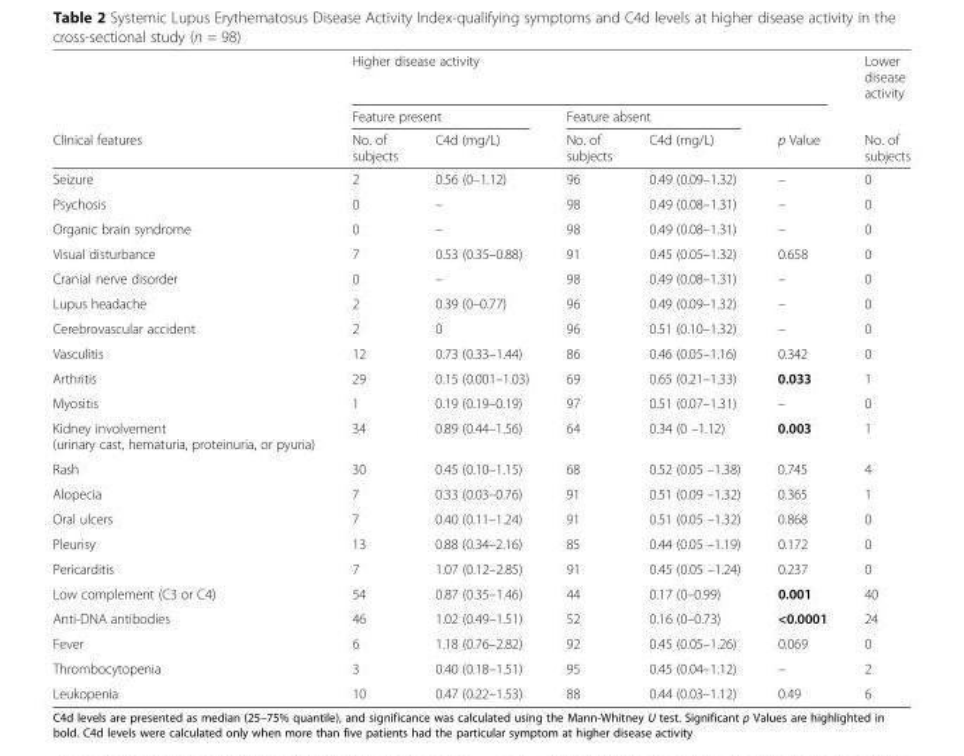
<table><thead><tr><td rowspan="3">Clinical features</td><td colspan="5">Higher disease activity</td><td rowspan="3">Lower disease activity No. of subjects</td></tr><tr><td colspan="2">Feature present</td><td colspan="2">Feature absent</td><td rowspan="2">p Value</td></tr><tr><td>No. of subjects</td><td>C4d (mg/L)</td><td>No. of subjects</td><td>C4d (mg/L)</td></tr></thead><tbody><tr><td>Seizure</td><td>2</td><td>0.56 (0–1.12)</td><td>96</td><td>0.49 (0.09–1.32)</td><td>–</td><td>0</td></tr><tr><td>Psychosis</td><td>0</td><td>–</td><td>98</td><td>0.49 (0.08–1.31)</td><td>–</td><td>0</td></tr><tr><td>Organic brain syndrome</td><td>0</td><td>–</td><td>98</td><td>0.49 (0.08–1.31)</td><td>–</td><td>0</td></tr><tr><td>Visual disturbance</td><td>7</td><td>0.53 (0.35–0.88)</td><td>91</td><td>0.45 (0.05–1.32)</td><td>0.658</td><td>0</td></tr><tr><td>Cranial nerve disorder</td><td>0</td><td>–</td><td>98</td><td>0.49 (0.08–1.31)</td><td>–</td><td>0</td></tr><tr><td>Lupus headache</td><td>2</td><td>0.39 (0–0.77)</td><td>96</td><td>0.49 (0.09–1.32)</td><td>–</td><td>0</td></tr><tr><td>Cerebrovascular accident</td><td>2</td><td>0</td><td>96</td><td>0.51 (0.10–1.32)</td><td>–</td><td>0</td></tr><tr><td>Vasculitis</td><td>12</td><td>0.73 (0.33–1.44)</td><td>86</td><td>0.46 (0.05–1.16)</td><td>0.342</td><td>0</td></tr><tr><td>Arthritis</td><td>29</td><td>0.15 (0.001–1.03)</td><td>69</td><td>0.65 (0.21–1.33)</td><td>0.033</td><td>1</td></tr><tr><td>Myositis</td><td>1</td><td>0.19 (0.19–0.19)</td><td>97</td><td>0.51 (0.07–1.31)</td><td>–</td><td>0</td></tr><tr><td>Kidney involvement (urinary cast, hematuria, proteinuria, or pyuria)</td><td>34</td><td>0.89 (0.44–1.56)</td><td>64</td><td>0.34 (0 –1.12)</td><td>0.003</td><td>1</td></tr><tr><td>Rash</td><td>30</td><td>0.45 (0.10–1.15)</td><td>68</td><td>0.52 (0.05 –1.38)</td><td>0.745</td><td>4</td></tr><tr><td>Alopecia</td><td>7</td><td>0.33 (0.03–0.76)</td><td>91</td><td>0.51 (0.09 –1.32)</td><td>0.365</td><td>1</td></tr><tr><td>Oral ulcers</td><td>7</td><td>0.40 (0.11–1.24)</td><td>91</td><td>0.51 (0.05 –1.32)</td><td>0.868</td><td>0</td></tr><tr><td>Pleurisy</td><td>13</td><td>0.88 (0.34–2.16)</td><td>85</td><td>0.44 (0.05 –1.19)</td><td>0.172</td><td>0</td></tr><tr><td>Pericarditis</td><td>7</td><td>1.07 (0.12–2.85)</td><td>91</td><td>0.45 (0.05 –1.24)</td><td>0.237</td><td>0</td></tr><tr><td>Low complement (C3 or C4)</td><td>54</td><td>0.87 (0.35–1.46)</td><td>44</td><td>0.17 (0–0.99)</td><td>0.001</td><td>40</td></tr><tr><td>Anti-DNA antibodies</td><td>46</td><td>1.02 (0.49–1.51)</td><td>52</td><td>0.16 (0–0.73)</td><td>&lt;0.0001</td><td>24</td></tr><tr><td>Fever</td><td>6</td><td>1.18 (0.76–2.82)</td><td>92</td><td>0.45 (0.05–1.26)</td><td>0.069</td><td>0</td></tr><tr><td>Thrombocytopenia</td><td>3</td><td>0.40 (0.18–1.51)</td><td>95</td><td>0.45 (0.04–1.12)</td><td>–</td><td>2</td></tr><tr><td>Leukopenia</td><td>10</td><td>0.47 (0.22–1.53)</td><td>88</td><td>0.44 (0.03–1.12)</td><td>0.49</td><td>6</td></tr></tbody></table>